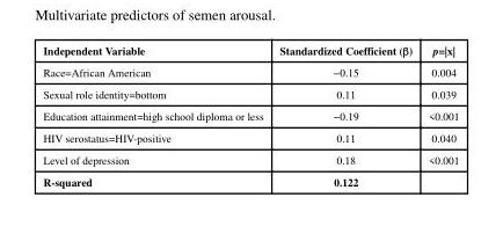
<table><thead><tr><td>Independent Variable</td><td>Standardized Coefficient (β)</td><td>p=|x|</td></tr></thead><tbody><tr><td>Race=African American</td><td>−0.15</td><td>0.004</td></tr><tr><td>Sexual role identity=bottom</td><td>0.11</td><td>0.039</td></tr><tr><td>Education attainment=high school diploma or less</td><td>−0.19</td><td>&lt;0.001</td></tr><tr><td>HIV serostatus=HIV-positive</td><td>0.11</td><td>0.040</td></tr><tr><td>Level of depression</td><td>0.18</td><td>&lt;0.001</td></tr><tr><td>R-squared</td><td>0.122</td><td></td></tr></tbody></table>